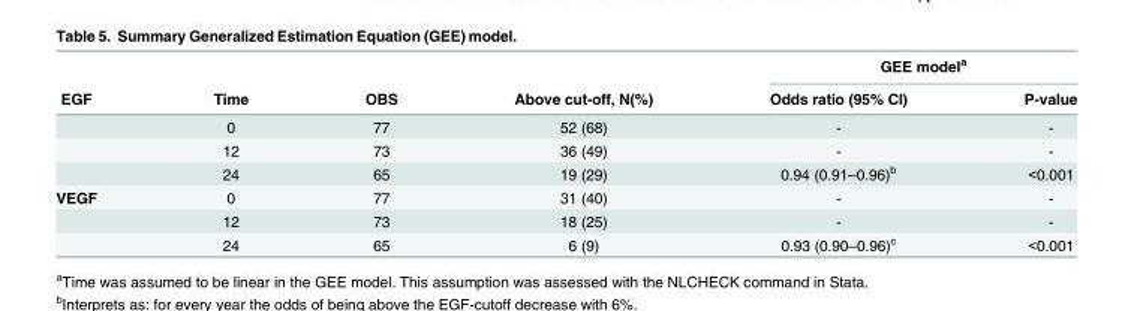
<table><thead><tr><td rowspan="2">EGF</td><td rowspan="2">Time</td><td rowspan="2">OBS</td><td rowspan="2">Above cut-off, N(%)</td><td colspan="2">GEE model<sup>a</sup></td></tr><tr><td>Odds ratio (95% CI)</td><td>P-value</td></tr></thead><tbody><tr><td></td><td>0</td><td>77</td><td>52 (68)</td><td>-</td><td>-</td></tr><tr><td></td><td>12</td><td>73</td><td>36 (49)</td><td>-</td><td>-</td></tr><tr><td></td><td>24</td><td>65</td><td>19 (29)</td><td>0.94 (0.91–0.96)<sup>b</sup></td><td>&lt;0.001</td></tr><tr><td rowspan="3">VEGF</td><td>0</td><td>77</td><td>31 (40)</td><td>-</td><td>-</td></tr><tr><td>12</td><td>73</td><td>18 (25)</td><td>-</td><td>-</td></tr><tr><td>24</td><td>65</td><td>6 (9)</td><td>0.93 (0.90–0.96)<sup>c</sup></td><td>&lt;0.001</td></tr></tbody></table>